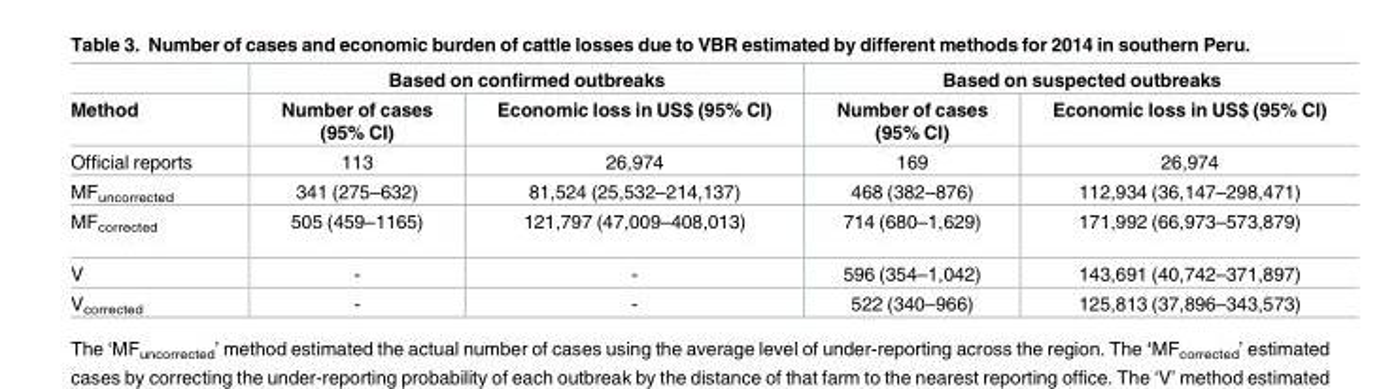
<table><thead><tr><td rowspan="2">Method</td><td colspan="2">Based on confirmed outbreaks</td><td colspan="2">Based on suspected outbreaks</td></tr><tr><td>Number of cases (95% CI)</td><td>Economic loss in US$ (95% CI)</td><td>Number of cases (95% CI)</td><td>Economic loss in US$ (95% CI)</td></tr></thead><tbody><tr><td>Official reports</td><td>113</td><td>26,974</td><td>169</td><td>26,974</td></tr><tr><td>MF<sub>uncorrected</sub></td><td>341 (275–632)</td><td>81,524 (25,532–214,137)</td><td>468 (382–876)</td><td>112,934 (36,147–298,471)</td></tr><tr><td>MF<sub>corrected</sub></td><td>505 (459–1165)</td><td>121,797 (47,009–408,013)</td><td>714 (680–1,629)</td><td>171,992 (66,973–573,879)</td></tr><tr><td>V</td><td>-</td><td>-</td><td>596 (354–1,042)</td><td>143,691 (40,742–371,897)</td></tr><tr><td>V<sub>corrected</sub></td><td>-</td><td>-</td><td>522 (340–966)</td><td>125,813 (37,896–343,573)</td></tr></tbody></table>